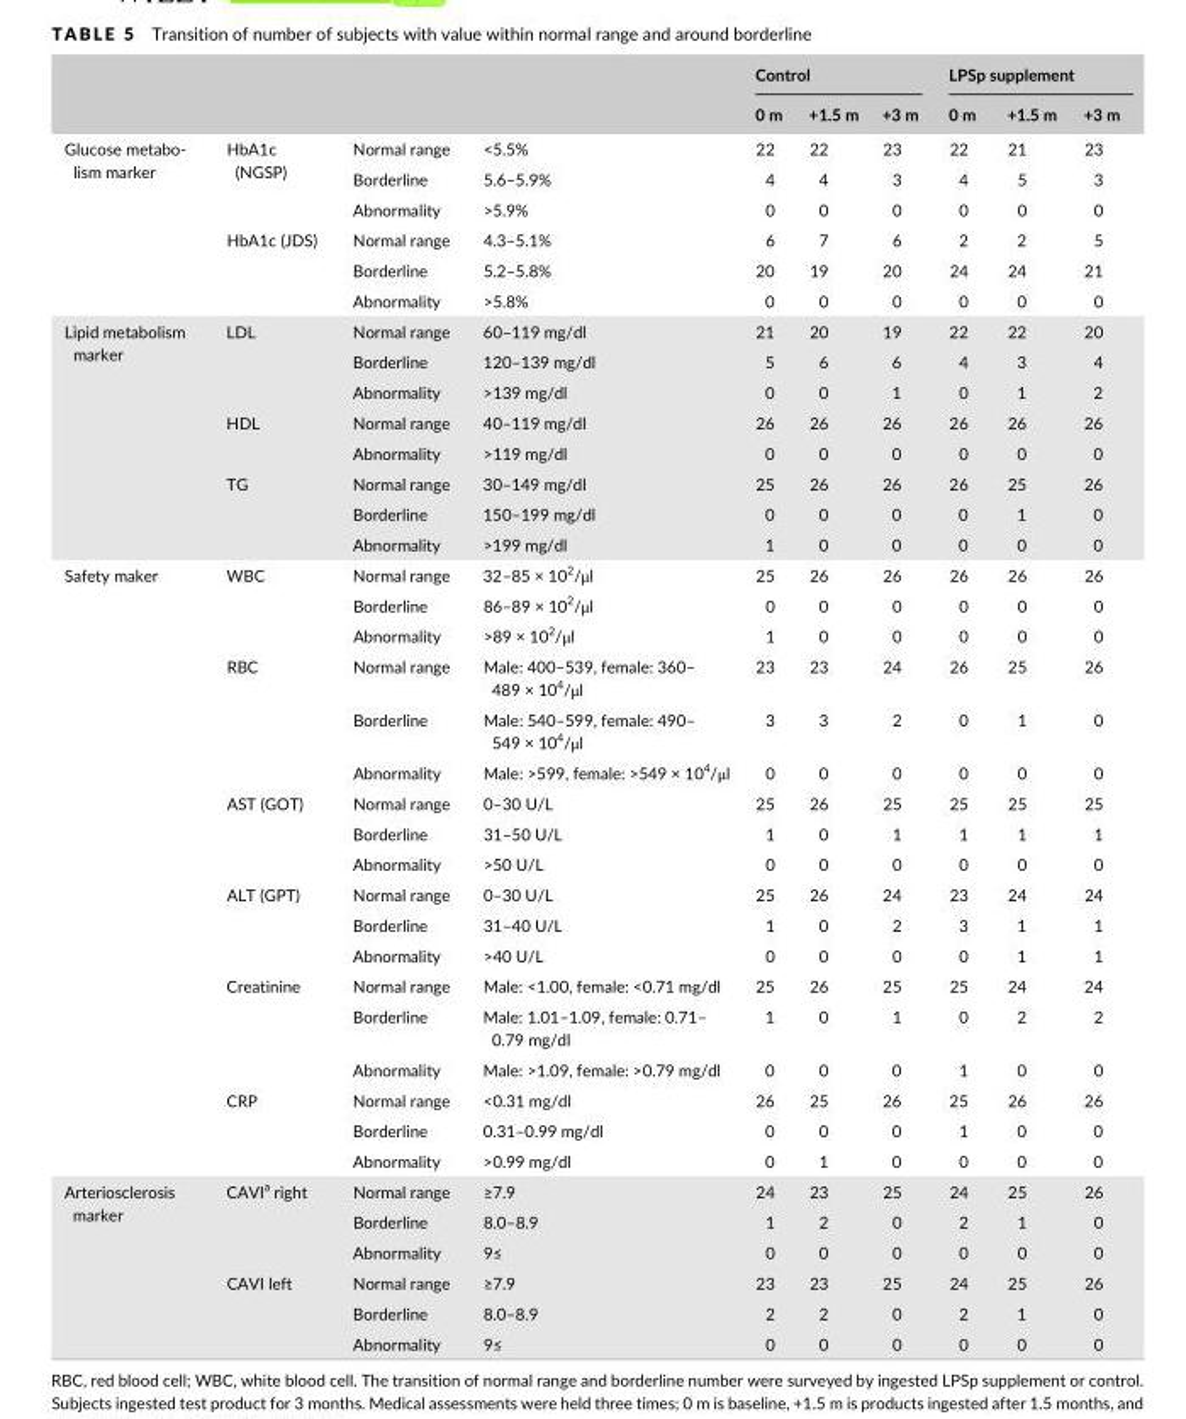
<table><thead><tr><td rowspan="2"></td><td rowspan="2"></td><td rowspan="2"></td><td rowspan="2"></td><td colspan="3">Control</td><td colspan="3">LPSp supplement</td></tr><tr><td>0 m</td><td>+1.5 m</td><td>+3 m</td><td>0 m</td><td>+1.5 m</td><td>+3 m</td></tr></thead><tbody><tr><td rowspan="6">Glucose metabo- lism marker</td><td rowspan="3">HbA1c (NGSP)</td><td>Normal range</td><td>&lt;5.5%</td><td>22</td><td>22</td><td>23</td><td>22</td><td>21</td><td>23</td></tr><tr><td>Borderline</td><td>5.6–5.9%</td><td>4</td><td>4</td><td>3</td><td>4</td><td>5</td><td>3</td></tr><tr><td>Abnormality</td><td>&gt;5.9%</td><td>0</td><td>0</td><td>0</td><td>0</td><td>0</td><td>0</td></tr><tr><td rowspan="3">HbA1c (JDS)</td><td>Normal range</td><td>4.3–5.1%</td><td>6</td><td>7</td><td>6</td><td>2</td><td>2</td><td>5</td></tr><tr><td>Borderline</td><td>5.2–5.8%</td><td>20</td><td>19</td><td>20</td><td>24</td><td>24</td><td>21</td></tr><tr><td>Abnormality</td><td>&gt;5.8%</td><td>0</td><td>0</td><td>0</td><td>0</td><td>0</td><td>0</td></tr><tr><td rowspan="8">Lipid metabolism marker</td><td rowspan="3">LDL</td><td>Normal range</td><td>60–119 mg/dl</td><td>21</td><td>20</td><td>19</td><td>22</td><td>22</td><td>20</td></tr><tr><td>Borderline</td><td>120–139 mg/dl</td><td>5</td><td>6</td><td>6</td><td>4</td><td>3</td><td>4</td></tr><tr><td>Abnormality</td><td>&gt;139 mg/dl</td><td>0</td><td>0</td><td>1</td><td>0</td><td>1</td><td>2</td></tr><tr><td rowspan="2">HDL</td><td>Normal range</td><td>40–119 mg/dl</td><td>26</td><td>26</td><td>26</td><td>26</td><td>26</td><td>26</td></tr><tr><td>Abnormality</td><td>&gt;119 mg/dl</td><td>0</td><td>0</td><td>0</td><td>0</td><td>0</td><td>0</td></tr><tr><td rowspan="3">TG</td><td>Normal range</td><td>30–149 mg/dl</td><td>25</td><td>26</td><td>26</td><td>26</td><td>25</td><td>26</td></tr><tr><td>Borderline</td><td>150–199 mg/dl</td><td>0</td><td>0</td><td>0</td><td>0</td><td>1</td><td>0</td></tr><tr><td>Abnormality</td><td>&gt;199 mg/dl</td><td>1</td><td>0</td><td>0</td><td>0</td><td>0</td><td>0</td></tr><tr><td rowspan="18">Safety maker</td><td rowspan="3">WBC</td><td>Normal range</td><td>32–85 × 10<sup>2</sup>/μl</td><td>25</td><td>26</td><td>26</td><td>26</td><td>26</td><td>26</td></tr><tr><td>Borderline</td><td>86–89 × 10<sup>2</sup>/μl</td><td>0</td><td>0</td><td>0</td><td>0</td><td>0</td><td>0</td></tr><tr><td>Abnormality</td><td>&gt;89 × 10<sup>2</sup>/μl</td><td>1</td><td>0</td><td>0</td><td>0</td><td>0</td><td>0</td></tr><tr><td rowspan="3">RBC</td><td>Normal range</td><td>Male: 400–539, female: 360– 489 × 10<sup>4</sup>/μl</td><td>23</td><td>23</td><td>24</td><td>26</td><td>25</td><td>26</td></tr><tr><td>Borderline</td><td>Male: 540–599, female: 490– 549 × 10<sup>4</sup>/μl</td><td>3</td><td>3</td><td>2</td><td>0</td><td>1</td><td>0</td></tr><tr><td>Abnormality</td><td>Male: &gt;599, female: &gt;549 × 10<sup>4</sup>/μl</td><td>0</td><td>0</td><td>0</td><td>0</td><td>0</td><td>0</td></tr><tr><td rowspan="3">AST (GOT)</td><td>Normal range</td><td>0–30 U/L</td><td>25</td><td>26</td><td>25</td><td>25</td><td>25</td><td>25</td></tr><tr><td>Borderline</td><td>31–50 U/L</td><td>1</td><td>0</td><td>1</td><td>1</td><td>1</td><td>1</td></tr><tr><td>Abnormality</td><td>&gt;50 U/L</td><td>0</td><td>0</td><td>0</td><td>0</td><td>0</td><td>0</td></tr><tr><td rowspan="3">ALT (GPT)</td><td>Normal range</td><td>0–30 U/L</td><td>25</td><td>26</td><td>24</td><td>23</td><td>24</td><td>24</td></tr><tr><td>Borderline</td><td>31–40 U/L</td><td>1</td><td>0</td><td>2</td><td>3</td><td>1</td><td>1</td></tr><tr><td>Abnormality</td><td>&gt;40 U/L</td><td>0</td><td>0</td><td>0</td><td>0</td><td>1</td><td>1</td></tr><tr><td rowspan="3">Creatinine</td><td>Normal range</td><td>Male: &lt;1.00, female: &lt;0.71 mg/dl</td><td>25</td><td>26</td><td>25</td><td>25</td><td>24</td><td>24</td></tr><tr><td>Borderline</td><td>Male: 1.01–1.09, female: 0.71– 0.79 mg/dl</td><td>1</td><td>0</td><td>1</td><td>0</td><td>2</td><td>2</td></tr><tr><td>Abnormality</td><td>Male: &gt;1.09, female: &gt;0.79 mg/dl</td><td>0</td><td>0</td><td>0</td><td>1</td><td>0</td><td>0</td></tr><tr><td rowspan="3">CRP</td><td>Normal range</td><td>&lt;0.31 mg/dl</td><td>26</td><td>25</td><td>26</td><td>25</td><td>26</td><td>26</td></tr><tr><td>Borderline</td><td>0.31–0.99 mg/dl</td><td>0</td><td>0</td><td>0</td><td>1</td><td>0</td><td>0</td></tr><tr><td>Abnormality</td><td>&gt;0.99 mg/dl</td><td>0</td><td>1</td><td>0</td><td>0</td><td>0</td><td>0</td></tr><tr><td rowspan="6">Arteriosclerosis marker</td><td rowspan="3">CAVI<sup>a</sup> right</td><td>Normal range</td><td>≥7.9</td><td>24</td><td>23</td><td>25</td><td>24</td><td>25</td><td>26</td></tr><tr><td>Borderline</td><td>8.0–8.9</td><td>1</td><td>2</td><td>0</td><td>2</td><td>1</td><td>0</td></tr><tr><td>Abnormality</td><td>9≤</td><td>0</td><td>0</td><td>0</td><td>0</td><td>0</td><td>0</td></tr><tr><td rowspan="3">CAVI left</td><td>Normal range</td><td>≥7.9</td><td>23</td><td>23</td><td>25</td><td>24</td><td>25</td><td>26</td></tr><tr><td>Borderline</td><td>8.0–8.9</td><td>2</td><td>2</td><td>0</td><td>2</td><td>1</td><td>0</td></tr><tr><td>Abnormality</td><td>9≤</td><td>0</td><td>0</td><td>0</td><td>0</td><td>0</td><td>0</td></tr></tbody></table>